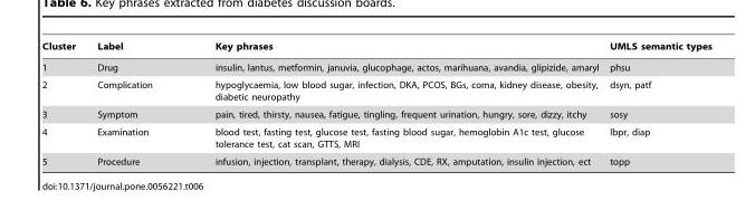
<table><thead><tr><td>Cluster</td><td>Label</td><td>Key phrases</td><td>UMLS semantic types</td></tr></thead><tbody><tr><td>1</td><td>Drug</td><td>insulin, lantus, metformin, januvia, glucophage, actos, marihuana, avandia, glipizide, amaryl</td><td>phsu</td></tr><tr><td>2</td><td>Complication</td><td>hypoglycaemia, low blood sugar, infection, DKA, PCOS, BGs, coma, kidney disease, obesity, diabetic neuropathy</td><td>dsyn, patf</td></tr><tr><td>3</td><td>Symptom</td><td>pain, tired, thirsty, nausea, fatigue, tingling, frequent urination, hungry, sore, dizzy, itchy</td><td>sosy</td></tr><tr><td>4</td><td>Examination</td><td>blood test, fasting test, glucose test, fasting blood sugar, hemoglobin A1c test, glucose tolerance test, cat scan, GTTS, MRI</td><td>lbpr, diap</td></tr><tr><td>5</td><td>Procedure</td><td>infusion, injection, transplant, therapy, dialysis, CDE, RX, amputation, insulin injection, ect</td><td>topp</td></tr></tbody></table>